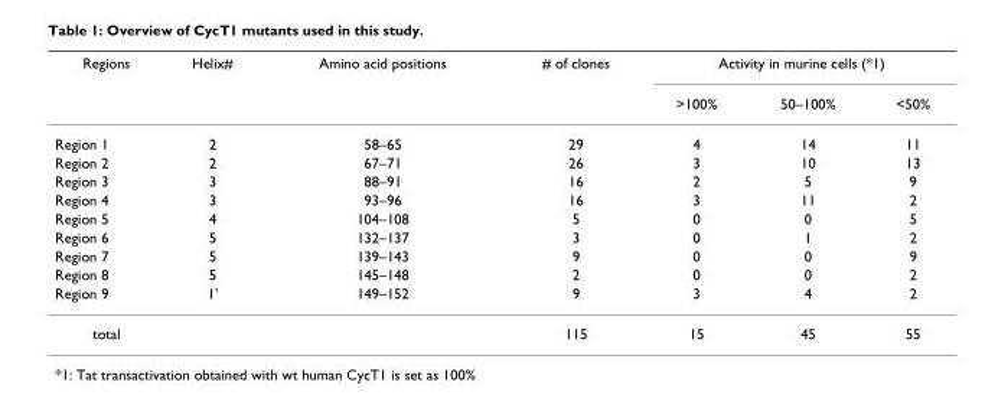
<table><thead><tr><td rowspan="2">Regions</td><td rowspan="2">Helix#</td><td rowspan="2">Amino acid positions</td><td rowspan="2"># of clones</td><td colspan="3">Activity in murine cells (*1)</td></tr><tr><td>&gt;100%</td><td>50–100%</td><td>&lt;50%</td></tr></thead><tbody><tr><td>Region 1</td><td>2</td><td>58–65</td><td>29</td><td>4</td><td>14</td><td>11</td></tr><tr><td>Region 2</td><td>2</td><td>67–71</td><td>26</td><td>3</td><td>10</td><td>13</td></tr><tr><td>Region 3</td><td>3</td><td>88–91</td><td>16</td><td>2</td><td>5</td><td>9</td></tr><tr><td>Region 4</td><td>3</td><td>93–96</td><td>16</td><td>3</td><td>11</td><td>2</td></tr><tr><td>Region 5</td><td>4</td><td>104–108</td><td>5</td><td>0</td><td>0</td><td>5</td></tr><tr><td>Region 6</td><td>5</td><td>132–137</td><td>3</td><td>0</td><td>1</td><td>2</td></tr><tr><td>Region 7</td><td>5</td><td>139–143</td><td>9</td><td>0</td><td>0</td><td>9</td></tr><tr><td>Region 8</td><td>5</td><td>145–148</td><td>2</td><td>0</td><td>0</td><td>2</td></tr><tr><td>Region 9</td><td>1&#x27;</td><td>149–152</td><td>9</td><td>3</td><td>4</td><td>2</td></tr><tr><td>total</td><td></td><td></td><td>115</td><td>15</td><td>45</td><td>55</td></tr></tbody></table>